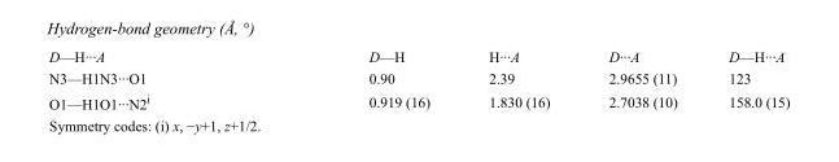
<table><tbody><tr><td>D—H···A</td><td>D—H</td><td>H···A</td><td>D···A</td><td>D—H···A</td></tr><tr><td>N3—H1N3···O1</td><td>0.90</td><td>2.39</td><td>2.9655 (11)</td><td>123</td></tr><tr><td>O1—H1O1···N2<sup>i</sup></td><td>0.919 (16)</td><td>1.830 (16)</td><td>2.7038 (10)</td><td>158.0 (15)</td></tr></tbody></table>